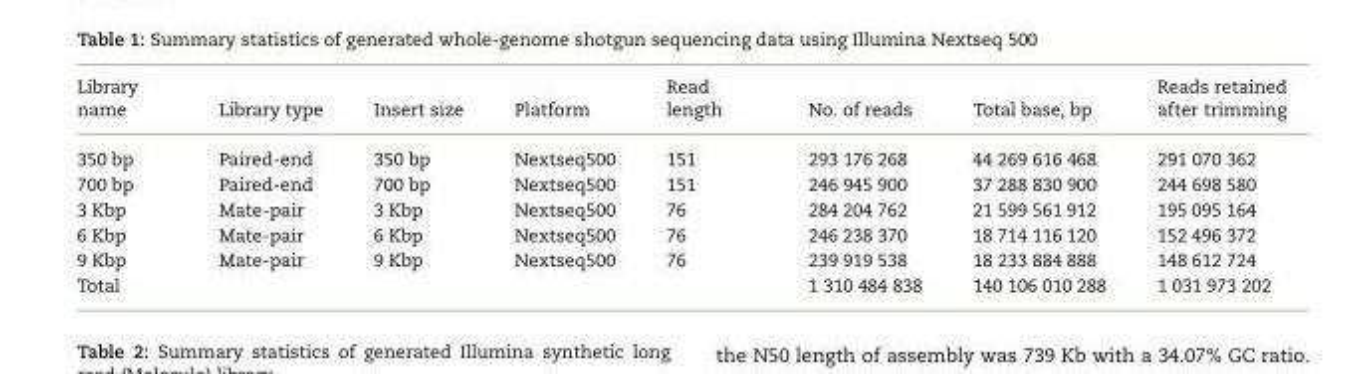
<table><thead><tr><td>Library name</td><td>Library type</td><td>Insert size</td><td>Platform</td><td>Read length</td><td>No. of reads</td><td>Total base, bp</td><td>Reads retained after trimming</td></tr></thead><tbody><tr><td>350 bp</td><td>Paired-end</td><td>350 bp</td><td>Nextseq500</td><td>151</td><td>293 176 268</td><td>44 269 616 468</td><td>291 070 362</td></tr><tr><td>700 bp</td><td>Paired-end</td><td>700 bp</td><td>Nextseq500</td><td>151</td><td>246 945 900</td><td>37 288 830 900</td><td>244 698 580</td></tr><tr><td>3 Kbp</td><td>Mate-pair</td><td>3 Kbp</td><td>Nextseq500</td><td>76</td><td>284 204 762</td><td>21 599 561 912</td><td>195 095 164</td></tr><tr><td>6 Kbp</td><td>Mate-pair</td><td>6 Kbp</td><td>Nextseq500</td><td>76</td><td>246 238 370</td><td>18 714 116 120</td><td>152 496 372</td></tr><tr><td>9 Kbp</td><td>Mate-pair</td><td>9 Kbp</td><td>Nextseq500</td><td>76</td><td>239 919 538</td><td>18 233 884 888</td><td>148 612 724</td></tr><tr><td>Total</td><td></td><td></td><td></td><td></td><td>1 310 484 838</td><td>140 106 010 288</td><td>1 031 973 202</td></tr></tbody></table>